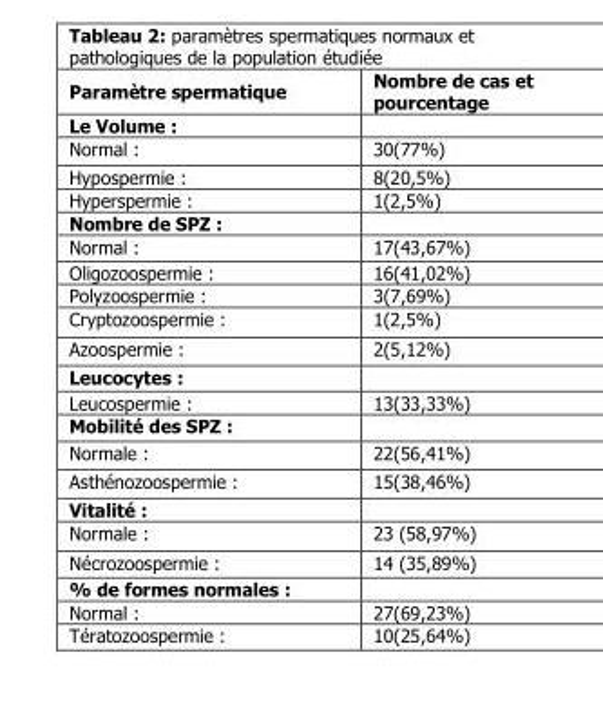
<table><thead><tr><td>Paramètre spermatique</td><td>Nombre de cas et pourcentage</td></tr></thead><tbody><tr><td colspan="2">Le Volume :</td></tr><tr><td>Normal :</td><td>30(77%)</td></tr><tr><td>Hypospermie :</td><td>8(20,5%)</td></tr><tr><td>Hyperspermie :</td><td>1(2,5%)</td></tr><tr><td colspan="2">Nombre de SPZ :</td></tr><tr><td>Normal :</td><td>17(43,67%)</td></tr><tr><td>Oligozoospermie :</td><td>16(41,02%)</td></tr><tr><td>Polyzoospermie :</td><td>3(7,69%)</td></tr><tr><td>Cryptozoospermie :</td><td>1(2,5%)</td></tr><tr><td>Azoospermie :</td><td>2(5,12%)</td></tr><tr><td colspan="2">Leucocytes :</td></tr><tr><td>Leucospermie :</td><td>13(33,33%)</td></tr><tr><td colspan="2">Mobilité des SPZ :</td></tr><tr><td>Normale :</td><td>22(56,41%)</td></tr><tr><td>Asthénozoospermie :</td><td>15(38,46%)</td></tr><tr><td colspan="2">Vitalité :</td></tr><tr><td>Normale :</td><td>23 (58,97%)</td></tr><tr><td>Nécrozoospermie :</td><td>14 (35,89%)</td></tr><tr><td colspan="2">% de formes normales :</td></tr><tr><td>Normal :</td><td>27(69,23%)</td></tr><tr><td>Tératozoospermie :</td><td>10(25,64%)</td></tr></tbody></table>